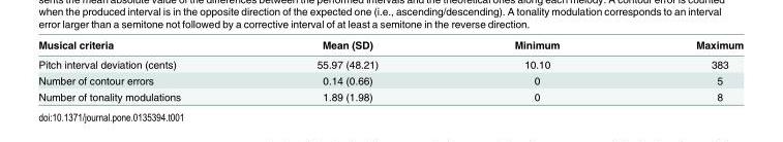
<table><thead><tr><td>Musical criteria</td><td>Mean (SD)</td><td>Minimum</td><td>Maximum</td></tr></thead><tbody><tr><td>Pitch interval deviation (cents)</td><td>55.97 (48.21)</td><td>10.10</td><td>383</td></tr><tr><td>Number of contour errors</td><td>0.14 (0.66)</td><td>0</td><td>5</td></tr><tr><td>Number of tonality modulations</td><td>1.89 (1.98)</td><td>0</td><td>8</td></tr></tbody></table>